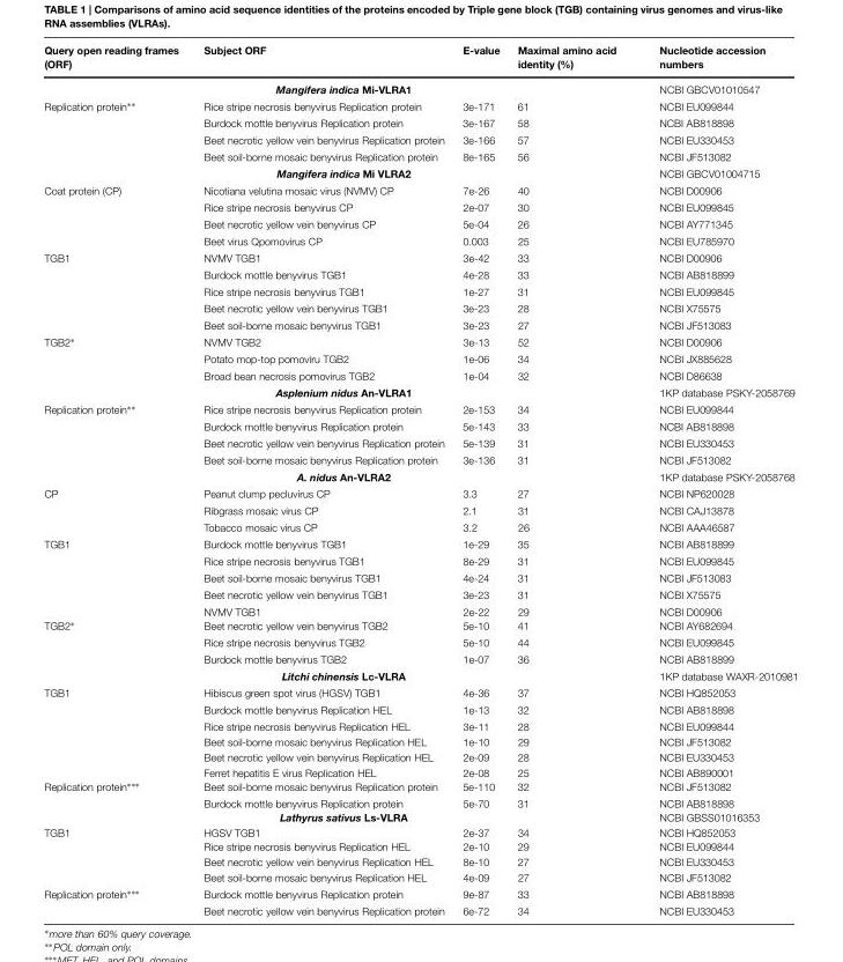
<table><thead><tr><td>Query open reading frames (ORF)</td><td>Subject ORF</td><td>E-value</td><td>Maximal amino acid identity (%)</td><td>Nucleotide accession numbers</td></tr></thead><tbody><tr><td></td><td>Mangifera indica Mi-VLRA1</td><td></td><td></td><td>NCBI GBCV01010547</td></tr><tr><td rowspan="5">Replication protein∗∗</td><td>Rice stripe necrosis benyvirus Replication protein</td><td>3e-171</td><td>61</td><td>NCBI EU099844</td></tr><tr><td>Burdock mottle benyvirus Replication protein</td><td>3e-167</td><td>58</td><td>NCBI AB818898</td></tr><tr><td>Beet necrotic yellow vein benyvirus Replication protein</td><td>3e-166</td><td>57</td><td>NCBI EU330453</td></tr><tr><td>Beet soil-borne mosaic benyvirus Replication protein</td><td>8e-165</td><td>56</td><td>NCBI JF513082</td></tr><tr><td>Mangifera indica Mi VLRA2</td><td></td><td></td><td>NCBI GBCV01004715</td></tr><tr><td rowspan="4">Coat protein (CP)</td><td>Nicotiana velutina mosaic virus (NVMV) CP</td><td>7e-26</td><td>40</td><td>NCBI D00906</td></tr><tr><td>Rice stripe necrosis benyvirus CP</td><td>2e-07</td><td>30</td><td>NCBI EU099845</td></tr><tr><td>Beet necrotic yellow vein benyvirus CP</td><td>5e-04</td><td>26</td><td>NCBI AY771345</td></tr><tr><td>Beet virus Qpomovirus CP</td><td>0.003</td><td>25</td><td>NCBI EU785970</td></tr><tr><td rowspan="5">TGB1</td><td>NVMV TGB1</td><td>3e-42</td><td>33</td><td>NCBI D00906</td></tr><tr><td>Burdock mottle benyvirus TGB1</td><td>4e-28</td><td>33</td><td>NCBI AB818899</td></tr><tr><td>Rice stripe necrosis benyvirus TGB1</td><td>1e-27</td><td>31</td><td>NCBI EU099845</td></tr><tr><td>Beet necrotic yellow vein benyvirus TGB1</td><td>3e-23</td><td>28</td><td>NCBI X75575</td></tr><tr><td>Beet soil-borne mosaic benyvirus TGB1</td><td>3e-23</td><td>27</td><td>NCBI JF513083</td></tr><tr><td rowspan="4">TGB2∗</td><td>NVMV TGB2</td><td>3e-13</td><td>52</td><td>NCBI D00906</td></tr><tr><td>Potato mop-top pomoviru TGB2</td><td>1e-06</td><td>34</td><td>NCBI JX885628</td></tr><tr><td>Broad bean necrosis pomovirus TGB2</td><td>1e-04</td><td>32</td><td>NCBI D86638</td></tr><tr><td>Asplenium nidus An-VLRA1</td><td></td><td></td><td>1KP database PSKY-2058769</td></tr><tr><td rowspan="5">Replication protein∗∗</td><td>Rice stripe necrosis benyvirus Replication protein</td><td>2e-153</td><td>34</td><td>NCBI EU099844</td></tr><tr><td>Burdock mottle benyvirus Replication protein</td><td>5e-143</td><td>33</td><td>NCBI AB818898</td></tr><tr><td>Beet necrotic yellow vein benyvirus Replication protein</td><td>5e-139</td><td>31</td><td>NCBI EU330453</td></tr><tr><td>Beet soil-borne mosaic benyvirus Replication protein</td><td>3e-136</td><td>31</td><td>NCBI JF513082</td></tr><tr><td>A. nidus An-VLRA2</td><td></td><td></td><td>1KP database PSKY-2058768</td></tr><tr><td rowspan="3">CP</td><td>Peanut clump pecluvirus CP</td><td>3.3</td><td>27</td><td>NCBI NP620028</td></tr><tr><td>Ribgrass mosaic virus CP</td><td>2.1</td><td>31</td><td>NCBI CAJ13878</td></tr><tr><td>Tobacco mosaic virus CP</td><td>3.2</td><td>26</td><td>NCBI AAA46587</td></tr><tr><td rowspan="5">TGB1</td><td>Burdock mottle benyvirus TGB1</td><td>1e-29</td><td>35</td><td>NCBI AB818899</td></tr><tr><td>Rice stripe necrosis benyvirus TGB1</td><td>8e-29</td><td>31</td><td>NCBI EU099845</td></tr><tr><td>Beet soil-borne mosaic benyvirus TGB1</td><td>4e-24</td><td>31</td><td>NCBI JF513083</td></tr><tr><td>Beet necrotic yellow vein benyvirus TGB1</td><td>3e-23</td><td>31</td><td>NCBI X75575</td></tr><tr><td>NVMV TGB1</td><td>2e-22</td><td>29</td><td>NCBI D00906</td></tr><tr><td rowspan="4">TGB2∗</td><td>Beet necrotic yellow vein benyvirus TGB2</td><td>5e-10</td><td>41</td><td>NCBI AY682694</td></tr><tr><td>Rice stripe necrosis benyvirus TGB2</td><td>5e-10</td><td>44</td><td>NCBI EU099845</td></tr><tr><td>Burdock mottle benyvirus TGB2</td><td>1e-07</td><td>36</td><td>NCBI AB818899</td></tr><tr><td>Litchi chinensis Lc-VLRA</td><td></td><td></td><td>1KP database WAXR-2010981</td></tr><tr><td rowspan="6">TGB1</td><td>Hibiscus green spot virus (HGSV) TGB1</td><td>4e-36</td><td>37</td><td>NCBI HQ852053</td></tr><tr><td>Burdock mottle benyvirus Replication HEL</td><td>1e-13</td><td>32</td><td>NCBI AB818898</td></tr><tr><td>Rice stripe necrosis benyvirus Replication HEL</td><td>3e-11</td><td>28</td><td>NCBI EU099844</td></tr><tr><td>Beet soil-borne mosaic benyvirus Replication HEL</td><td>1e-10</td><td>29</td><td>NCBI JF513082</td></tr><tr><td>Beet necrotic yellow vein benyvirus Replication HEL</td><td>2e-09</td><td>28</td><td>NCBI EU330453</td></tr><tr><td>Ferret hepatitis E virus Replication HEL</td><td>2e-08</td><td>25</td><td>NCBI AB890001</td></tr><tr><td rowspan="3">Replication protein∗∗∗</td><td>Beet soil-borne mosaic benyvirus Replication protein</td><td>5e-110</td><td>32</td><td>NCBI JF513082</td></tr><tr><td>Burdock mottle benyvirus Replication protein</td><td>5e-70</td><td>31</td><td>NCBI AB818898</td></tr><tr><td>Lathyrus sativus Ls-VLRA</td><td></td><td></td><td>NCBI GBSS01016353</td></tr><tr><td rowspan="4">TGB1</td><td>HGSV TGB1</td><td>2e-37</td><td>34</td><td>NCBI HQ852053</td></tr><tr><td>Rice stripe necrosis benyvirus Replication HEL</td><td>2e-10</td><td>29</td><td>NCBI EU099844</td></tr><tr><td>Beet necrotic yellow vein benyvirus Replication HEL</td><td>8e-10</td><td>27</td><td>NCBI EU330453</td></tr><tr><td>Beet soil-borne mosaic benyvirus Replication HEL</td><td>4e-09</td><td>27</td><td>NCBI JF513082</td></tr><tr><td rowspan="2">Replication protein∗∗∗</td><td>Burdock mottle benyvirus Replication protein</td><td>9e-87</td><td>33</td><td>NCBI AB818898</td></tr><tr><td>Beet necrotic yellow vein benyvirus Replication protein</td><td>6e-72</td><td>34</td><td>NCBI EU330453</td></tr></tbody></table>